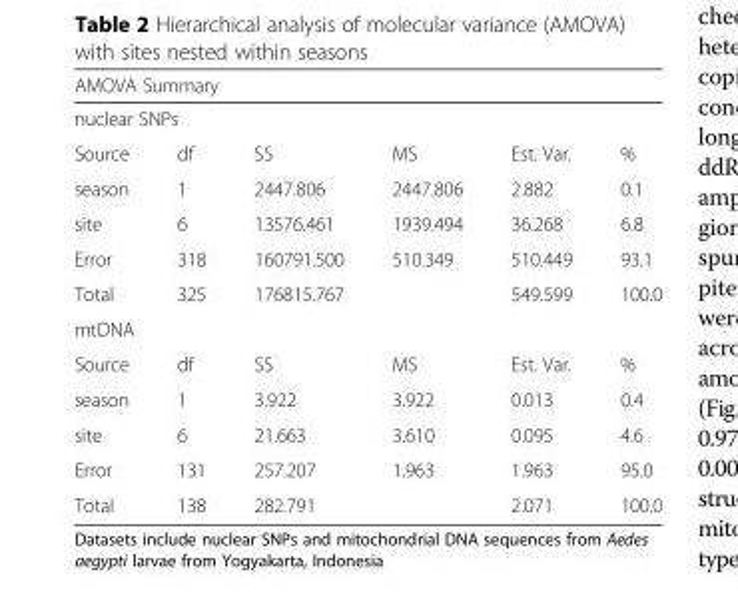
<table><thead><tr><td rowspan="2" colspan="6">AMOVA Summary nuclear SNPs</td></tr><tr></tr><tr><td>Source</td><td>df</td><td>SS</td><td>MS</td><td>Est. Var.</td><td>%</td></tr></thead><tbody><tr><td>season</td><td>1</td><td>2447.806</td><td>2447.806</td><td>2.882</td><td>0.1</td></tr><tr><td>site</td><td>6</td><td>13576.461</td><td>1939.494</td><td>36.268</td><td>6.8</td></tr><tr><td>Error</td><td>318</td><td>160791.500</td><td>510.349</td><td>510.449</td><td>93.1</td></tr><tr><td>Total</td><td>325</td><td>176815.767</td><td></td><td>549.599</td><td>100.0</td></tr><tr><td colspan="6">mtDNA</td></tr><tr><td>Source</td><td>df</td><td>SS</td><td>MS</td><td>Est. Var.</td><td>%</td></tr><tr><td>season</td><td>1</td><td>3.922</td><td>3.922</td><td>0.013</td><td>0.4</td></tr><tr><td>site</td><td>6</td><td>21.663</td><td>3.610</td><td>0.095</td><td>4.6</td></tr><tr><td>Error</td><td>131</td><td>257.207</td><td>1.963</td><td>1.963</td><td>95.0</td></tr><tr><td>Total</td><td>138</td><td>282.791</td><td></td><td>2.071</td><td>100.0</td></tr></tbody></table>